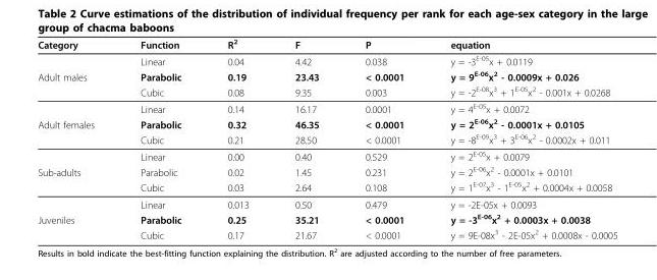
<table><thead><tr><td>Category</td><td>Function</td><td>R<sup>2</sup></td><td>F</td><td>P</td><td>equation</td></tr></thead><tbody><tr><td></td><td>Linear</td><td>0.04</td><td>4.42</td><td>0.038</td><td>y = -3<sup>E-05</sup>x + 0.0119</td></tr><tr><td rowspan="3">Adult males</td><td>Parabolic</td><td>0.19</td><td>23.43</td><td>&lt; 0.0001</td><td>y = 9<sup>E-06</sup>x<sup>2</sup> - 0.0009x + 0.026</td></tr><tr><td>Cubic</td><td>0.08</td><td>9.35</td><td>0.003</td><td>y = -2<sup>E-08</sup>x<sup>3</sup> + 1<sup>E-05</sup>x<sup>2</sup> - 0.001x + 0.0268</td></tr><tr><td>Linear</td><td>0.14</td><td>16.17</td><td>0.0001</td><td>y = 4<sup>E-05</sup>x + 0.0072</td></tr><tr><td rowspan="3">Adult females</td><td>Parabolic</td><td>0.32</td><td>46.35</td><td>&lt; 0.0001</td><td>y = 2<sup>E-06</sup>x<sup>2</sup> - 0.0001x + 0.0105</td></tr><tr><td>Cubic</td><td>0.21</td><td>28.50</td><td>&lt; 0.0001</td><td>y = -8<sup>E-09</sup>x<sup>3</sup> + 3<sup>E-06</sup>x<sup>2</sup> - 0.0002x + 0.011</td></tr><tr><td>Linear</td><td>0.00</td><td>0.40</td><td>0.529</td><td>y = 2<sup>E-05</sup>x + 0.0079</td></tr><tr><td rowspan="3">Sub-adults</td><td>Parabolic</td><td>0.02</td><td>1.45</td><td>0.231</td><td>y = 2<sup>E-06</sup>x<sup>2</sup> - 0.0001x + 0.0101</td></tr><tr><td>Cubic</td><td>0.03</td><td>2.64</td><td>0.108</td><td>y = 1<sup>E-07</sup>x<sup>3</sup> - 1<sup>E-05</sup>x<sup>2</sup> + 0.0004x + 0.0058</td></tr><tr><td>Linear</td><td>0.013</td><td>0.50</td><td>0.479</td><td>y = -2E-05x + 0.0093</td></tr><tr><td rowspan="2">Juveniles</td><td>Parabolic</td><td>0.25</td><td>35.21</td><td>&lt; 0.0001</td><td>y = -3<sup>E-06</sup>x<sup>2</sup> + 0.0003x + 0.0038</td></tr><tr><td>Cubic</td><td>0.17</td><td>21.67</td><td>&lt; 0.0001</td><td>y = 9E-08x<sup>3</sup> - 2E-05x<sup>2</sup> + 0.0008x - 0.0005</td></tr></tbody></table>